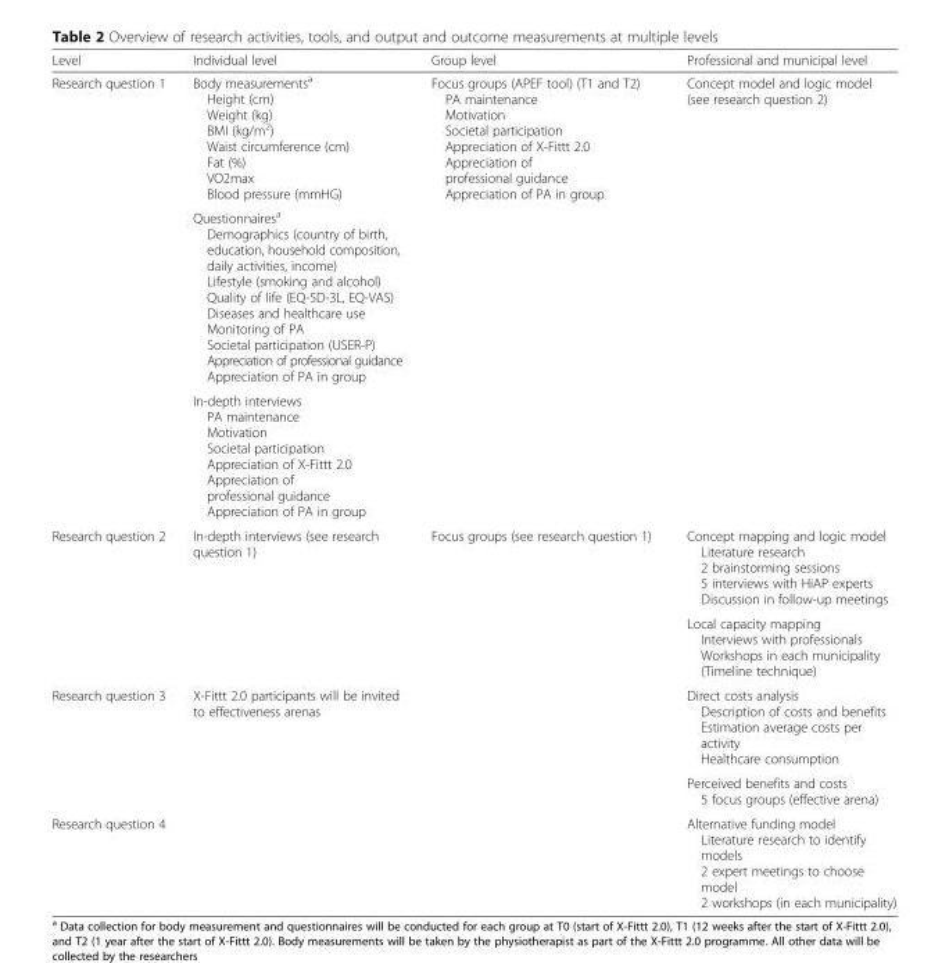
<table><thead><tr><td>Level</td><td>Individual level</td><td>Group level</td><td>Professional and municipal level</td></tr></thead><tbody><tr><td rowspan="3">Research question 1</td><td>Body measurements<sup>a</sup> Height (cm) Weight (kg) BMI (kg/m<sup>2</sup>) Waist circumference (cm) Fat (%) VO2max Blood pressure (mmHG)</td><td>Focus groups (APEF tool) (T1 and T2) PA maintenance Motivation Societal participation Appreciation of X-Fittt 2.0 Appreciation of professional guidance Appreciation of PA in group</td><td>Concept model and logic model (see research question 2)</td></tr><tr><td>Questionnaires<sup>a</sup> Demographics (country of birth, education, household composition, daily activities, income) Lifestyle (smoking and alcohol) Quality of life (EQ-5D-3L, EQ-VAS) Diseases and healthcare use Monitoring of PA Societal participation (USER-P) Appreciation of professional guidance Appreciation of PA in group</td><td></td><td></td></tr><tr><td>In-depth interviews PA maintenance Motivation Societal participation Appreciation of X-Fittt 2.0 Appreciation of professional guidance Appreciation of PA in group</td><td></td><td></td></tr><tr><td rowspan="2">Research question 2</td><td rowspan="2">In-depth interviews (see research question 1)</td><td rowspan="2">Focus groups (see research question 1)</td><td>Concept mapping and logic model Literature research 2 brainstorming sessions 5 interviews with HiAP experts Discussion in follow-up meetings</td></tr><tr><td>Local capacity mapping Interviews with professionals Workshops in each municipality (Timeline technique)</td></tr><tr><td rowspan="2">Research question 3</td><td rowspan="2">X-Fittt 2.0 participants will be invited to effectiveness arenas</td><td rowspan="2"></td><td>Direct costs analysis Description of costs and benefits Estimation average costs per activity Healthcare consumption</td></tr><tr><td>Perceived benefits and costs 5 focus groups (effective arena)</td></tr><tr><td>Research question 4</td><td></td><td></td><td>Alternative funding model Literature research to identify models 2 expert meetings to choose model 2 workshops (in each municipality)</td></tr></tbody></table>